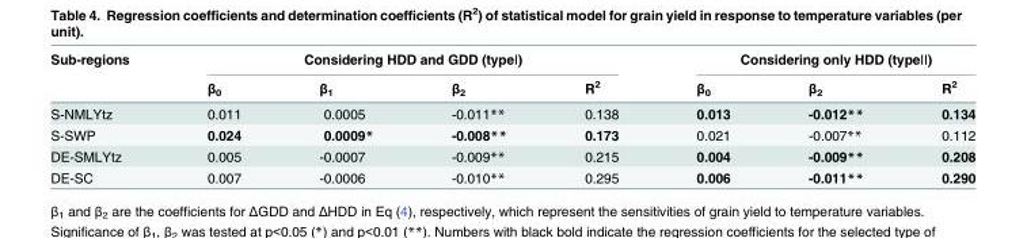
<table><thead><tr><td rowspan="2">Sub-regions</td><td colspan="4">Considering HDD and GDD (typeⅠ)</td><td colspan="3">Considering only HDD (typeⅡ)</td></tr><tr><td>β<sub>0</sub></td><td>β<sub>1</sub></td><td>β<sub>2</sub></td><td>R<sup>2</sup></td><td>β<sub>0</sub></td><td>β<sub>2</sub></td><td>R<sup>2</sup></td></tr></thead><tbody><tr><td>S-NMLYtz</td><td>0.011</td><td>0.0005</td><td>-0.011**</td><td>0.138</td><td>0.013</td><td>-0.012**</td><td>0.134</td></tr><tr><td>S-SWP</td><td>0.024</td><td>0.0009*</td><td>-0.008**</td><td>0.173</td><td>0.021</td><td>-0.007**</td><td>0.112</td></tr><tr><td>DE-SMLYtz</td><td>0.005</td><td>-0.0007</td><td>-0.009**</td><td>0.215</td><td>0.004</td><td>-0.009**</td><td>0.208</td></tr><tr><td>DE-SC</td><td>0.007</td><td>-0.0006</td><td>-0.010**</td><td>0.295</td><td>0.006</td><td>-0.011**</td><td>0.290</td></tr></tbody></table>